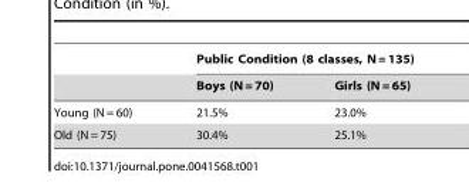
<table><thead><tr><td rowspan="2"></td><td colspan="2">Public Condition (8 classes, N = 135)</td></tr><tr><td>Boys (N = 70)</td><td>Girls (N = 65)</td></tr></thead><tbody><tr><td>Young (N = 60)</td><td>21.5%</td><td>23.0%</td></tr><tr><td>Old (N = 75)</td><td>30.4%</td><td>25.1%</td></tr></tbody></table>